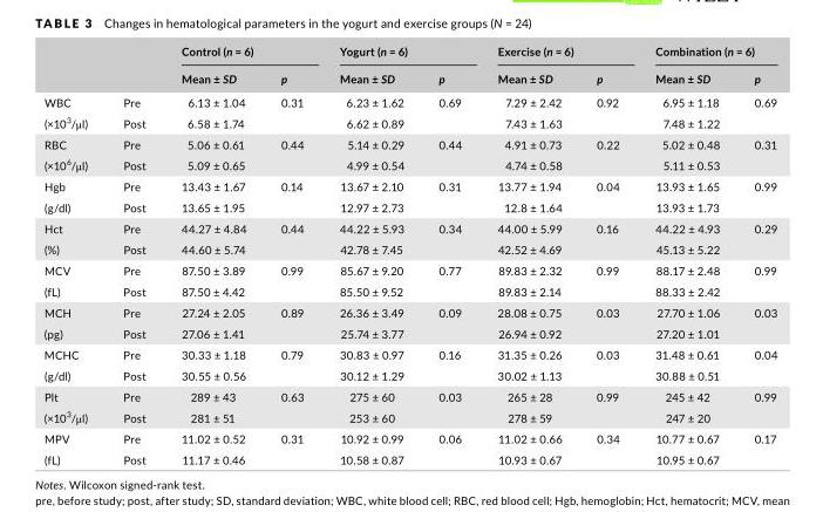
<table><thead><tr><td rowspan="2"></td><td rowspan="2"></td><td colspan="2">Control (n = 6)</td><td colspan="2">Yogurt (n = 6)</td><td colspan="2">Exercise (n = 6)</td><td colspan="2">Combination (n = 6)</td></tr><tr><td>Mean ± SD</td><td>p</td><td>Mean ± SD</td><td>p</td><td>Mean ± SD</td><td>p</td><td>Mean ± SD</td><td>p</td></tr></thead><tbody><tr><td>WBC</td><td>Pre</td><td>6.13 ± 1.04</td><td rowspan="2">0.31</td><td>6.23 ± 1.62</td><td rowspan="2">0.69</td><td>7.29 ± 2.42</td><td rowspan="2">0.92</td><td>6.95 ± 1.18</td><td rowspan="2">0.69</td></tr><tr><td>(×10<sup>3</sup>/μl)</td><td>Post</td><td>6.58 ± 1.74</td><td>6.62 ± 0.89</td><td>7.43 ± 1.63</td><td>7.48 ± 1.22</td></tr><tr><td>RBC</td><td>Pre</td><td>5.06 ± 0.61</td><td rowspan="2">0.44</td><td>5.14 ± 0.29</td><td rowspan="2">0.44</td><td>4.91 ± 0.73</td><td rowspan="2">0.22</td><td>5.02 ± 0.48</td><td rowspan="2">0.31</td></tr><tr><td>(×10<sup>6</sup>/μl)</td><td>Post</td><td>5.09 ± 0.65</td><td>4.99 ± 0.54</td><td>4.74 ± 0.58</td><td>5.11 ± 0.53</td></tr><tr><td>Hgb</td><td>Pre</td><td>13.43 ± 1.67</td><td rowspan="2">0.14</td><td>13.67 ± 2.10</td><td rowspan="2">0.31</td><td>13.77 ± 1.94</td><td rowspan="2">0.04</td><td>13.93 ± 1.65</td><td rowspan="2">0.99</td></tr><tr><td>(g/dl)</td><td>Post</td><td>13.65 ± 1.95</td><td>12.97 ± 2.73</td><td>12.8 ± 1.64</td><td>13.93 ± 1.73</td></tr><tr><td>Hct</td><td>Pre</td><td>44.27 ± 4.84</td><td rowspan="2">0.44</td><td>44.22 ± 5.93</td><td rowspan="2">0.34</td><td>44.00 ± 5.99</td><td rowspan="2">0.16</td><td>44.22 ± 4.93</td><td rowspan="2">0.29</td></tr><tr><td>(%)</td><td>Post</td><td>44.60 ± 5.74</td><td>42.78 ± 7.45</td><td>42.52 ± 4.69</td><td>45.13 ± 5.22</td></tr><tr><td>MCV</td><td>Pre</td><td>87.50 ± 3.89</td><td rowspan="2">0.99</td><td>85.67 ± 9.20</td><td rowspan="2">0.77</td><td>89.83 ± 2.32</td><td rowspan="2">0.99</td><td>88.17 ± 2.48</td><td rowspan="2">0.99</td></tr><tr><td>(fL)</td><td>Post</td><td>87.50 ± 4.42</td><td>85.50 ± 9.52</td><td>89.83 ± 2.14</td><td>88.33 ± 2.42</td></tr><tr><td>MCH</td><td>Pre</td><td>27.24 ± 2.05</td><td rowspan="2">0.89</td><td>26.36 ± 3.49</td><td rowspan="2">0.09</td><td>28.08 ± 0.75</td><td rowspan="2">0.03</td><td>27.70 ± 1.06</td><td rowspan="2">0.03</td></tr><tr><td>(pg)</td><td>Post</td><td>27.06 ± 1.41</td><td>25.74 ± 3.77</td><td>26.94 ± 0.92</td><td>27.20 ± 1.01</td></tr><tr><td>MCHC</td><td>Pre</td><td>30.33 ± 1.18</td><td rowspan="2">0.79</td><td>30.83 ± 0.97</td><td rowspan="2">0.16</td><td>31.35 ± 0.26</td><td rowspan="2">0.03</td><td>31.48 ± 0.61</td><td rowspan="2">0.04</td></tr><tr><td>(g/dl)</td><td>Post</td><td>30.55 ± 0.56</td><td>30.12 ± 1.29</td><td>30.02 ± 1.13</td><td>30.88 ± 0.51</td></tr><tr><td>Plt</td><td>Pre</td><td>289 ± 43</td><td rowspan="2">0.63</td><td>275 ± 60</td><td rowspan="2">0.03</td><td>265 ± 28</td><td rowspan="2">0.99</td><td>245 ± 42</td><td rowspan="2">0.99</td></tr><tr><td>(×10<sup>3</sup>/μl)</td><td>Post</td><td>281 ± 51</td><td>253 ± 60</td><td>278 ± 59</td><td>247 ± 20</td></tr><tr><td>MPV</td><td>Pre</td><td>11.02 ± 0.52</td><td rowspan="2">0.31</td><td>10.92 ± 0.99</td><td rowspan="2">0.06</td><td>11.02 ± 0.66</td><td rowspan="2">0.34</td><td>10.77 ± 0.67</td><td rowspan="2">0.17</td></tr><tr><td>(fL)</td><td>Post</td><td>11.17 ± 0.46</td><td>10.58 ± 0.87</td><td>10.93 ± 0.67</td><td>10.95 ± 0.67</td></tr></tbody></table>